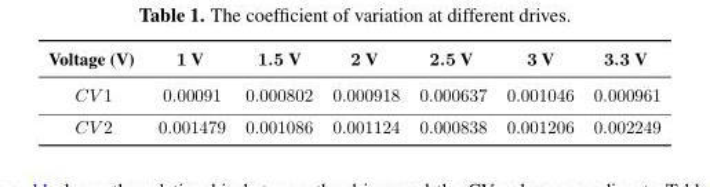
<table><thead><tr><td>Voltage (V)</td><td>1 V</td><td>1.5 V</td><td>2 V</td><td>2.5 V</td><td>3 V</td><td>3.3 V</td></tr></thead><tbody><tr><td>CV 1</td><td>0.00091</td><td>0.000802</td><td>0.000918</td><td>0.000637</td><td>0.001046</td><td>0.000961</td></tr><tr><td>CV 2</td><td>0.001479</td><td>0.001086</td><td>0.001124</td><td>0.000838</td><td>0.001206</td><td>0.002249</td></tr></tbody></table>